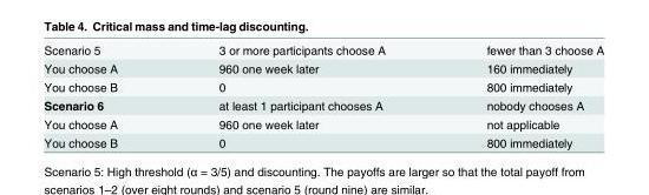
<table><tbody><tr><td>Scenario 5</td><td>3 or more participants choose A</td><td>fewer than 3 choose A</td></tr><tr><td>You choose A</td><td>960 one week later</td><td>160 immediately</td></tr><tr><td>You choose B</td><td>0</td><td>800 immediately</td></tr><tr><td>Scenario 6</td><td>at least 1 participant chooses A</td><td>nobody chooses A</td></tr><tr><td>You choose A</td><td>960 one week later</td><td>not applicable</td></tr><tr><td>You choose B</td><td>0</td><td>800 immediately</td></tr></tbody></table>